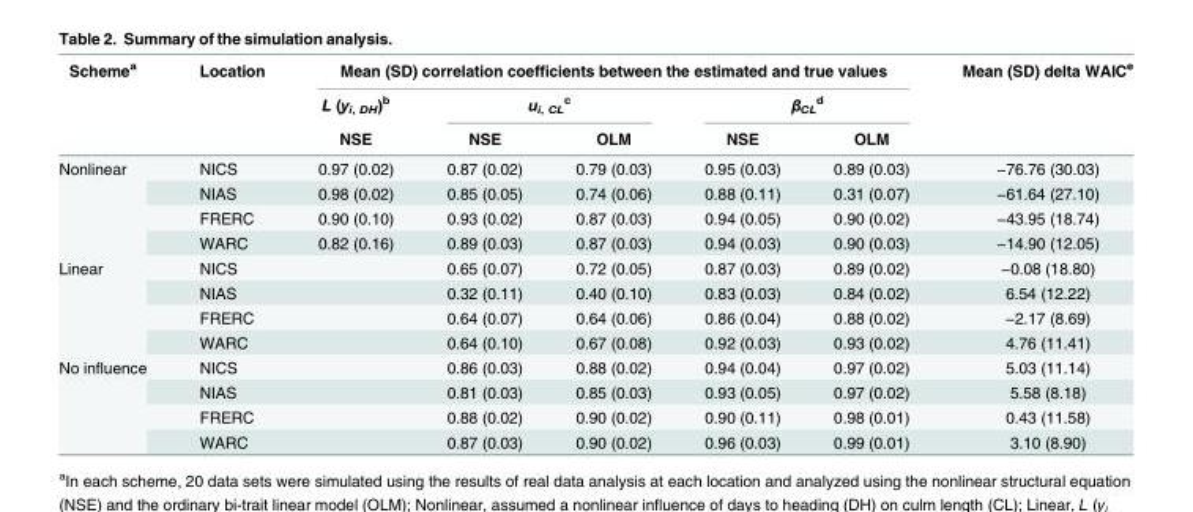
<table><thead><tr><td rowspan="3">Scheme<sup>a</sup></td><td rowspan="3">Location</td><td colspan="5">Mean (SD) correlation coefficients between the estimated and true values</td><td rowspan="3">Mean (SD) delta WAIC<sup>e</sup></td></tr><tr><td rowspan="2">L (y<sub>i, DH</sub>)<sup>b</sup> NSE</td><td colspan="2">u<sub>i, CL</sub> <sup>c</sup></td><td colspan="2">β<sub>CL</sub> <sup>d</sup></td></tr><tr><td>NSE</td><td>OLM</td><td>NSE</td><td>OLM</td></tr></thead><tbody><tr><td rowspan="4">Nonlinear</td><td>NICS</td><td>0.97 (0.02)</td><td>0.87 (0.02)</td><td>0.79 (0.03)</td><td>0.95 (0.03)</td><td>0.89 (0.03)</td><td>−76.76 (30.03)</td></tr><tr><td>NIAS</td><td>0.98 (0.02)</td><td>0.85 (0.05)</td><td>0.74 (0.06)</td><td>0.88 (0.11)</td><td>0.31 (0.07)</td><td>−61.64 (27.10)</td></tr><tr><td>FRERC</td><td>0.90 (0.10)</td><td>0.93 (0.02)</td><td>0.87 (0.03)</td><td>0.94 (0.05)</td><td>0.90 (0.02)</td><td>−43.95 (18.74)</td></tr><tr><td>WARC</td><td>0.82 (0.16)</td><td>0.89 (0.03)</td><td>0.87 (0.03)</td><td>0.94 (0.03)</td><td>0.90 (0.03)</td><td>−14.90 (12.05)</td></tr><tr><td rowspan="4">Linear</td><td>NICS</td><td></td><td>0.65 (0.07)</td><td>0.72 (0.05)</td><td>0.87 (0.03)</td><td>0.89 (0.02)</td><td>−0.08 (18.80)</td></tr><tr><td>NIAS</td><td></td><td>0.32 (0.11)</td><td>0.40 (0.10)</td><td>0.83 (0.03)</td><td>0.84 (0.02)</td><td>6.54 (12.22)</td></tr><tr><td>FRERC</td><td></td><td>0.64 (0.07)</td><td>0.64 (0.06)</td><td>0.86 (0.04)</td><td>0.88 (0.02)</td><td>−2.17 (8.69)</td></tr><tr><td>WARC</td><td></td><td>0.64 (0.10)</td><td>0.67 (0.08)</td><td>0.92 (0.03)</td><td>0.93 (0.02)</td><td>4.76 (11.41)</td></tr><tr><td rowspan="4">No influence</td><td>NICS</td><td></td><td>0.86 (0.03)</td><td>0.88 (0.02)</td><td>0.94 (0.04)</td><td>0.97 (0.02)</td><td>5.03 (11.14)</td></tr><tr><td>NIAS</td><td></td><td>0.81 (0.03)</td><td>0.85 (0.03)</td><td>0.93 (0.05)</td><td>0.97 (0.02)</td><td>5.58 (8.18)</td></tr><tr><td>FRERC</td><td></td><td>0.88 (0.02)</td><td>0.90 (0.02)</td><td>0.90 (0.11)</td><td>0.98 (0.01)</td><td>0.43 (11.58)</td></tr><tr><td>WARC</td><td></td><td>0.87 (0.03)</td><td>0.90 (0.02)</td><td>0.96 (0.03)</td><td>0.99 (0.01)</td><td>3.10 (8.90)</td></tr></tbody></table>